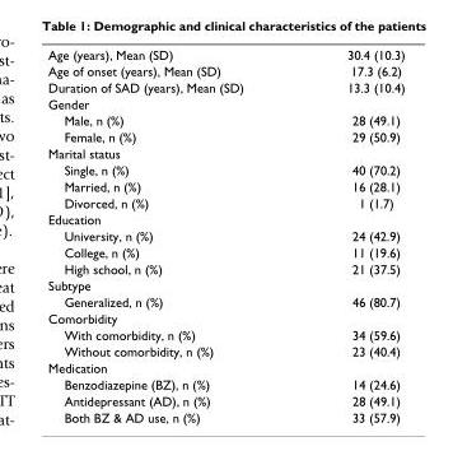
<table><tbody><tr><td>Age (years), Mean (SD)</td><td>30.4 (10.3)</td></tr><tr><td>Age of onset (years), Mean (SD)</td><td>17.3 (6.2)</td></tr><tr><td>Duration of SAD (years), Mean (SD)</td><td>13.3 (10.4)</td></tr><tr><td colspan="2">Gender</td></tr><tr><td>Male, n (%)</td><td>28 (49.1)</td></tr><tr><td>Female, n (%)</td><td>29 (50.9)</td></tr><tr><td colspan="2">Marital status</td></tr><tr><td>Single, n (%)</td><td>40 (70.2)</td></tr><tr><td>Married, n (%)</td><td>16 (28.1)</td></tr><tr><td>Divorced, n (%)</td><td>1 (1.7)</td></tr><tr><td colspan="2">Education</td></tr><tr><td>University, n (%)</td><td>24 (42.9)</td></tr><tr><td>College, n (%)</td><td>11 (19.6)</td></tr><tr><td>High school, n (%)</td><td>21 (37.5)</td></tr><tr><td colspan="2">Subtype</td></tr><tr><td>Generalized, n (%)</td><td>46 (80.7)</td></tr><tr><td colspan="2">Comorbidity</td></tr><tr><td>With comorbidity, n (%)</td><td>34 (59.6)</td></tr><tr><td>Without comorbidity, n (%)</td><td>23 (40.4)</td></tr><tr><td colspan="2">Medication</td></tr><tr><td>Benzodiazepine (BZ), n (%)</td><td>14 (24.6)</td></tr><tr><td>Antidepressant (AD), n (%)</td><td>28 (49.1)</td></tr><tr><td>Both BZ &amp; AD use, n (%)</td><td>33 (57.9)</td></tr></tbody></table>